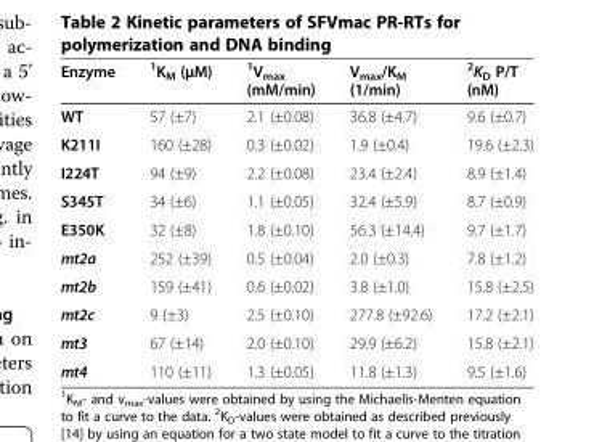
<table><thead><tr><td>Enzyme</td><td><sup>1</sup>K<sub>M</sub> (μM)</td><td><sup>1</sup>V<sub>max</sub> (mM/min)</td><td>V<sub>max</sub>/K<sub>M</sub> (1/min)</td><td><sup>2</sup>K<sub>D</sub> P/T (nM)</td></tr></thead><tbody><tr><td>WT</td><td>57 (±7)</td><td>2.1 (±0.08)</td><td>36.8 (±4.7)</td><td>9.6 (±0.7)</td></tr><tr><td>K211I</td><td>160 (±28)</td><td>0.3 (±0.02)</td><td>1.9 (±0.4)</td><td>19.6 (±2.3)</td></tr><tr><td>I224T</td><td>94 (±9)</td><td>2.2 (±0.08)</td><td>23.4 (±2.4)</td><td>8.9 (±1.4)</td></tr><tr><td>S345T</td><td>34 (±6)</td><td>1.1 (±0.05)</td><td>32.4 (±5.9)</td><td>8.7 (±0.9)</td></tr><tr><td>E350K</td><td>32 (±8)</td><td>1.8 (±0.10)</td><td>56.3 (±14.4)</td><td>9.7 (±1.7)</td></tr><tr><td>mt2a</td><td>252 (±39)</td><td>0.5 (±0.04)</td><td>2.0 (±0.3)</td><td>7.8 (±1.2)</td></tr><tr><td>mt2b</td><td>159 (±41)</td><td>0.6 (±0.02)</td><td>3.8 (±1.0)</td><td>15.8 (±2.5)</td></tr><tr><td>mt2c</td><td>9 (±3)</td><td>2.5 (±0.10)</td><td>277.8 (±92.6)</td><td>17.2 (±2.1)</td></tr><tr><td>mt3</td><td>67 (±14)</td><td>2.0 (±0.10)</td><td>29.9 (±6.2)</td><td>15.8 (±2.1)</td></tr><tr><td>mt4</td><td>110 (±11)</td><td>1.3 (±0.05)</td><td>11.8 (±1.3)</td><td>9.5 (±1.6)</td></tr></tbody></table>